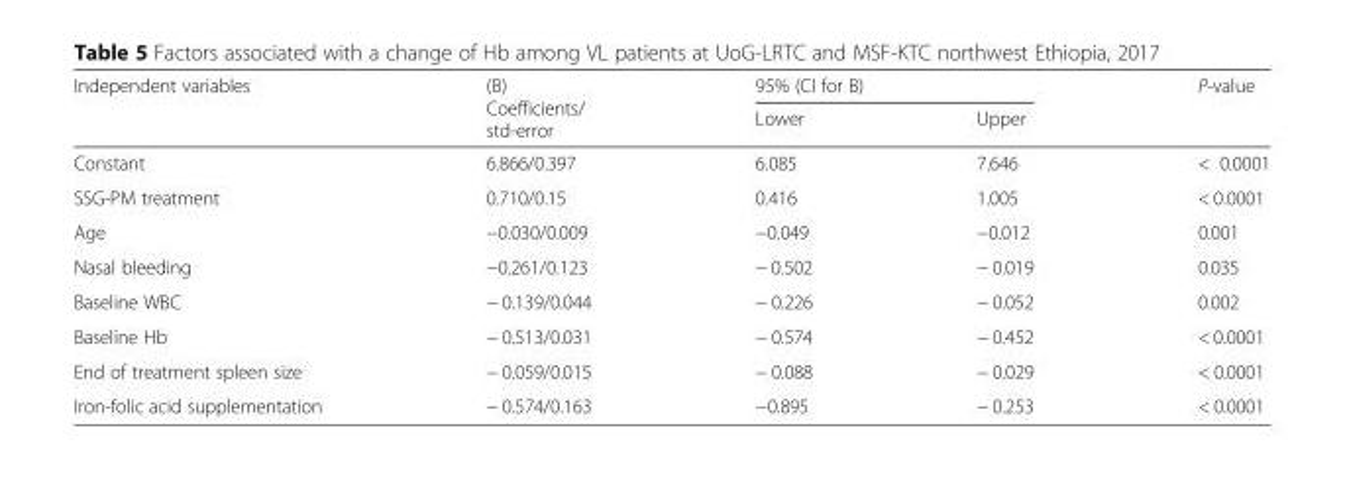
<table><thead><tr><td rowspan="2">Independent variables</td><td rowspan="2">(B) Coefficients/ std-error</td><td colspan="2">95% (CI for B)</td><td rowspan="2">P-value</td></tr><tr><td>Lower</td><td>Upper</td></tr></thead><tbody><tr><td>Constant</td><td>6.866/0.397</td><td>6.085</td><td>7.646</td><td>&lt; 0.0001</td></tr><tr><td>SSG-PM treatment</td><td>0.710/0.15</td><td>0.416</td><td>1.005</td><td>&lt; 0.0001</td></tr><tr><td>Age</td><td>−0.030/0.009</td><td>−0.049</td><td>−0.012</td><td>0.001</td></tr><tr><td>Nasal bleeding</td><td>−0.261/0.123</td><td>− 0.502</td><td>− 0.019</td><td>0.035</td></tr><tr><td>Baseline WBC</td><td>− 0.139/0.044</td><td>− 0.226</td><td>− 0.052</td><td>0.002</td></tr><tr><td>Baseline Hb</td><td>− 0.513/0.031</td><td>− 0.574</td><td>− 0.452</td><td>&lt; 0.0001</td></tr><tr><td>End of treatment spleen size</td><td>− 0.059/0.015</td><td>− 0.088</td><td>− 0.029</td><td>&lt; 0.0001</td></tr><tr><td>Iron-folic acid supplementation</td><td>− 0.574/0.163</td><td>−0.895</td><td>− 0.253</td><td>&lt; 0.0001</td></tr></tbody></table>